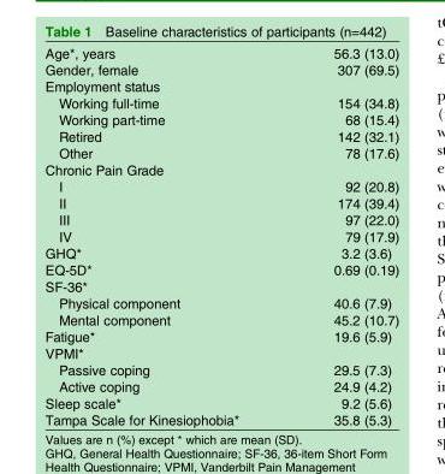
<table><tbody><tr><td>Age*, years</td><td>56.3 (13.0)</td></tr><tr><td>Gender, female</td><td>307 (69.5)</td></tr><tr><td colspan="2">Employment status</td></tr><tr><td>Working full-time</td><td>154 (34.8)</td></tr><tr><td>Working part-time</td><td>68 (15.4)</td></tr><tr><td>Retired</td><td>142 (32.1)</td></tr><tr><td>Other</td><td>78 (17.6)</td></tr><tr><td colspan="2">Chronic Pain Grade</td></tr><tr><td>I</td><td>92 (20.8)</td></tr><tr><td>II</td><td>174 (39.4)</td></tr><tr><td>III</td><td>97 (22.0)</td></tr><tr><td>IV</td><td>79 (17.9)</td></tr><tr><td>GHQ*</td><td>3.2 (3.6)</td></tr><tr><td>EQ-5D*</td><td>0.69 (0.19)</td></tr><tr><td colspan="2">SF-36*</td></tr><tr><td>Physical component</td><td>40.6 (7.9)</td></tr><tr><td>Mental component</td><td>45.2 (10.7)</td></tr><tr><td>Fatigue*</td><td>19.6 (5.9)</td></tr><tr><td colspan="2">VPMI*</td></tr><tr><td>Passive coping</td><td>29.5 (7.3)</td></tr><tr><td>Active coping</td><td>24.9 (4.2)</td></tr><tr><td>Sleep scale*</td><td>9.2 (5.6)</td></tr><tr><td>Tampa Scale for Kinesiophobia*</td><td>35.8 (5.3)</td></tr></tbody></table>